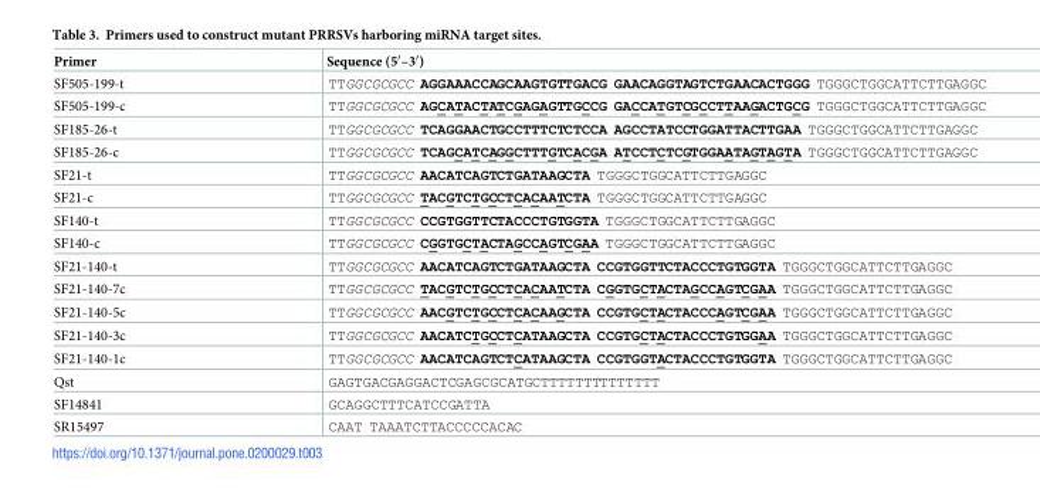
<table><thead><tr><td>Primer</td><td>Sequence (5′–3′)</td></tr></thead><tbody><tr><td>SF505-199-t</td><td>TTGGCGCGCC AGGAAACCAGCAAGTGTTGACG GAACAGGTAGTCTGAACACTGGG TGGGCTGGCATTCTTGAGGC</td></tr><tr><td>SF505-199-c</td><td>TTGGCGCGCC AGCATACTATCGAGAGTTGCCG GACCATGTCGCCTTAAGACTGCG TGGGCTGGCATTCTTGAGGC</td></tr><tr><td>SF185-26-t</td><td>TTGGCGCGCC TCAGGAACTGCCTTTCTCTCCA AGCCTATCCTGGATTACTTGAA TGGGCTGGCATTCTTGAGGC</td></tr><tr><td>SF185-26-c</td><td>TTGGCGCGCC TCAGCATCAGGCTTTGTCACGA ATCCTCTCGTGGAATAGTAGTA TGGGCTGGCATTCTTGAGGC</td></tr><tr><td>SF21-t</td><td>TTGGCGCGCC AACATCAGTCTGATAAGCTA TGGGCTGGCATTCTTGAGGC</td></tr><tr><td>SF21-c</td><td>TTGGCGCGCC TACGTCTGCCTCACAATCTA TGGGCTGGCATTCTTGAGGC</td></tr><tr><td>SF140-t</td><td>TTGGCGCGCC CCGTGGTTCTACCCTGTGGTA TGGGCTGGCATTCTTGAGGC</td></tr><tr><td>SF140-c</td><td>TTGGCGCGCC CGGTGCTACTAGCCAGTCGAA TGGGCTGGCATTCTTGAGGC</td></tr><tr><td>SF21-140-t</td><td>TTGGCGCGCC AACATCAGTCTGATAAGCTA CCGTGGTTCTACCCTGTGGTA TGGGCTGGCATTCTTGAGGC</td></tr><tr><td>SF21-140-7c</td><td>TTGGCGCGCC TACGTCTGCCTCACAATCTA CGGTGCTACTAGCCAGTCGAA TGGGCTGGCATTCTTGAGGC</td></tr><tr><td>SF21-140-5c</td><td>TTGGCGCGCC AACGTCTGCCTCACAAGCTA CCGTGCTACTACCCAGTCGAA TGGGCTGGCATTCTTGAGGC</td></tr><tr><td>SF21-140-3c</td><td>TTGGCGCGCC AACATCTGCCTCATAAGCTA CCGTGCTACTACCCTGTGGAA TGGGCTGGCATTCTTGAGGC</td></tr><tr><td>SF21-140-1c</td><td>TTGGCGCGCC AACATCAGTCTCATAAGCTA CCGTGGTACTACCCTGTGGTA TGGGCTGGCATTCTTGAGGC</td></tr><tr><td>Qst</td><td>GAGTGACGAGGACTCGAGCGCATGCTTTTTTTTTTTTTT</td></tr><tr><td>SF14841</td><td>GCAGGCTTTCATCCGATTA</td></tr><tr><td>SR15497</td><td>CAAT TAAATCTTACCCCCACAC</td></tr></tbody></table>